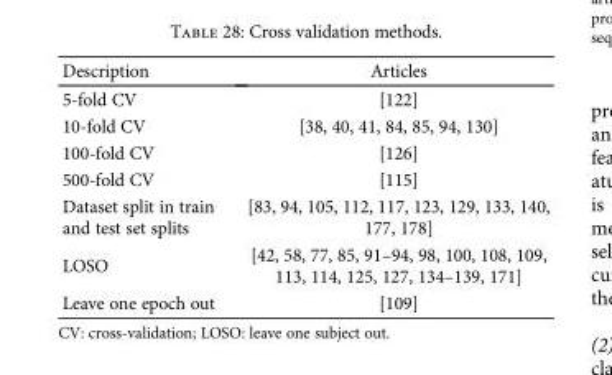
<table><thead><tr><td>Description</td><td>Articles</td></tr></thead><tbody><tr><td>5-fold CV</td><td>[122]</td></tr><tr><td>10-fold CV</td><td>[38, 40, 41, 84, 85, 94, 130]</td></tr><tr><td>100-fold CV</td><td>[126]</td></tr><tr><td>500-fold CV</td><td>[115]</td></tr><tr><td>Dataset split in train and test set splits</td><td>[83, 94, 105, 112, 117, 123, 129, 133, 140, 177, 178]</td></tr><tr><td>LOSO</td><td>[42, 58, 77, 85, 91–94, 98, 100, 108, 109, 113, 114, 125, 127, 134–139, 171]</td></tr><tr><td>Leave one epoch out</td><td>[109]</td></tr></tbody></table>